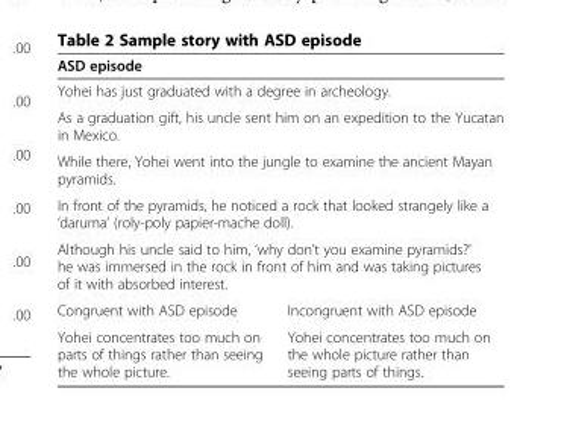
<table><thead><tr><td colspan="2">ASD episode</td></tr></thead><tbody><tr><td colspan="2">Yohei has just graduated with a degree in archeology.</td></tr><tr><td colspan="2">As a graduation gift, his uncle sent him on an expedition to the Yucatan in Mexico.</td></tr><tr><td colspan="2">While there, Yohei went into the jungle to examine the ancient Mayan pyramids.</td></tr><tr><td colspan="2">In front of the pyramids, he noticed a rock that looked strangely like a ‘daruma’ (roly-poly papier-mache doll).</td></tr><tr><td colspan="2">Although his uncle said to him, ‘why don’t you examine pyramids?’ he was immersed in the rock in front of him and was taking pictures of it with absorbed interest.</td></tr><tr><td>Congruent with ASD episode</td><td>Incongruent with ASD episode</td></tr><tr><td>Yohei concentrates too much on parts of things rather than seeing the whole picture.</td><td>Yohei concentrates too much on the whole picture rather than seeing parts of things.</td></tr></tbody></table>